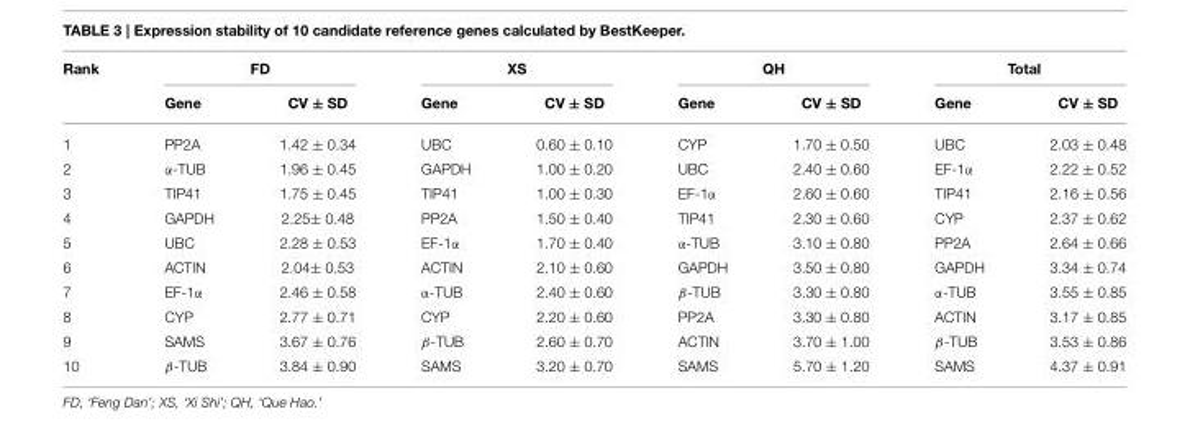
<table><thead><tr><td rowspan="2">Rank</td><td colspan="2">FD</td><td colspan="2">XS</td><td colspan="2">QH</td><td colspan="2">Total</td></tr><tr><td>Gene</td><td>CV ± SD</td><td>Gene</td><td>CV ± SD</td><td>Gene</td><td>CV ± SD</td><td>Gene</td><td>CV ± SD</td></tr></thead><tbody><tr><td>1</td><td>PP2A</td><td>1.42 ± 0.34</td><td>UBC</td><td>0.60 ± 0.10</td><td>CYP</td><td>1.70 ± 0.50</td><td>UBC</td><td>2.03 ± 0.48</td></tr><tr><td>2</td><td>α-TUB</td><td>1.96 ± 0.45</td><td>GAPDH</td><td>1.00 ± 0.20</td><td>UBC</td><td>2.40 ± 0.60</td><td>EF-1α</td><td>2.22 ± 0.52</td></tr><tr><td>3</td><td>TIP41</td><td>1.75 ± 0.45</td><td>TIP41</td><td>1.00 ± 0.30</td><td>EF-1α</td><td>2.60 ± 0.60</td><td>TIP41</td><td>2.16 ± 0.56</td></tr><tr><td>4</td><td>GAPDH</td><td>2.25± 0.48</td><td>PP2A</td><td>1.50 ± 0.40</td><td>TIP41</td><td>2.30 ± 0.60</td><td>CYP</td><td>2.37 ± 0.62</td></tr><tr><td>5</td><td>UBC</td><td>2.28 ± 0.53</td><td>EF-1α</td><td>1.70 ± 0.40</td><td>α-TUB</td><td>3.10 ± 0.80</td><td>PP2A</td><td>2.64 ± 0.66</td></tr><tr><td>6</td><td>ACTIN</td><td>2.04± 0.53</td><td>ACTIN</td><td>2.10 ± 0.60</td><td>GAPDH</td><td>3.50 ± 0.80</td><td>GAPDH</td><td>3.34 ± 0.74</td></tr><tr><td>7</td><td>EF-1α</td><td>2.46 ± 0.58</td><td>α-TUB</td><td>2.40 ± 0.60</td><td>β-TUB</td><td>3.30 ± 0.80</td><td>α-TUB</td><td>3.55 ± 0.85</td></tr><tr><td>8</td><td>CYP</td><td>2.77 ± 0.71</td><td>CYP</td><td>2.20 ± 0.60</td><td>PP2A</td><td>3.30 ± 0.80</td><td>ACTIN</td><td>3.17 ± 0.85</td></tr><tr><td>9</td><td>SAMS</td><td>3.67 ± 0.76</td><td>β-TUB</td><td>2.60 ± 0.70</td><td>ACTIN</td><td>3.70 ± 1.00</td><td>β-TUB</td><td>3.53 ± 0.86</td></tr><tr><td>10</td><td>β-TUB</td><td>3.84 ± 0.90</td><td>SAMS</td><td>3.20 ± 0.70</td><td>SAMS</td><td>5.70 ± 1.20</td><td>SAMS</td><td>4.37 ± 0.91</td></tr></tbody></table>